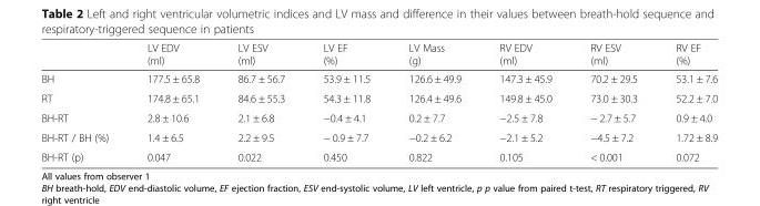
<table><thead><tr><td></td><td>LV EDV (ml)</td><td>LV ESV (ml)</td><td>LV EF (%)</td><td>LV Mass (g)</td><td>RV EDV (ml)</td><td>RV ESV (ml)</td><td>RV EF (%)</td></tr></thead><tbody><tr><td>BH</td><td>177.5 ± 65.8</td><td>86.7 ± 56.7</td><td>53.9 ± 11.5</td><td>126.6 ± 49.9</td><td>147.3 ± 45.9</td><td>70.2 ± 29.5</td><td>53.1 ± 7.6</td></tr><tr><td>RT</td><td>174.8 ± 65.1</td><td>84.6 ± 55.3</td><td>54.3 ± 11.8</td><td>126.4 ± 49.6</td><td>149.8 ± 45.0</td><td>73.0 ± 30.3</td><td>52.2 ± 7.0</td></tr><tr><td>BH-RT</td><td>2.8 ± 10.6</td><td>2.1 ± 6.8</td><td>−0.4 ± 4.1</td><td>0.2 ± 7.7</td><td>−2.5 ± 7.8</td><td>− 2.7 ± 5.7</td><td>0.9 ± 4.0</td></tr><tr><td>BH-RT / BH (%)</td><td>1.4 ± 6.5</td><td>2.2 ± 9.5</td><td>− 0.9 ± 7.7</td><td>−0.2 ± 6.2</td><td>−2.1 ± 5.2</td><td>−4.5 ± 7.2</td><td>1.72 ± 8.9</td></tr><tr><td>BH-RT (p)</td><td>0.047</td><td>0.022</td><td>0.450</td><td>0.822</td><td>0.105</td><td>&lt; 0.001</td><td>0.072</td></tr></tbody></table>